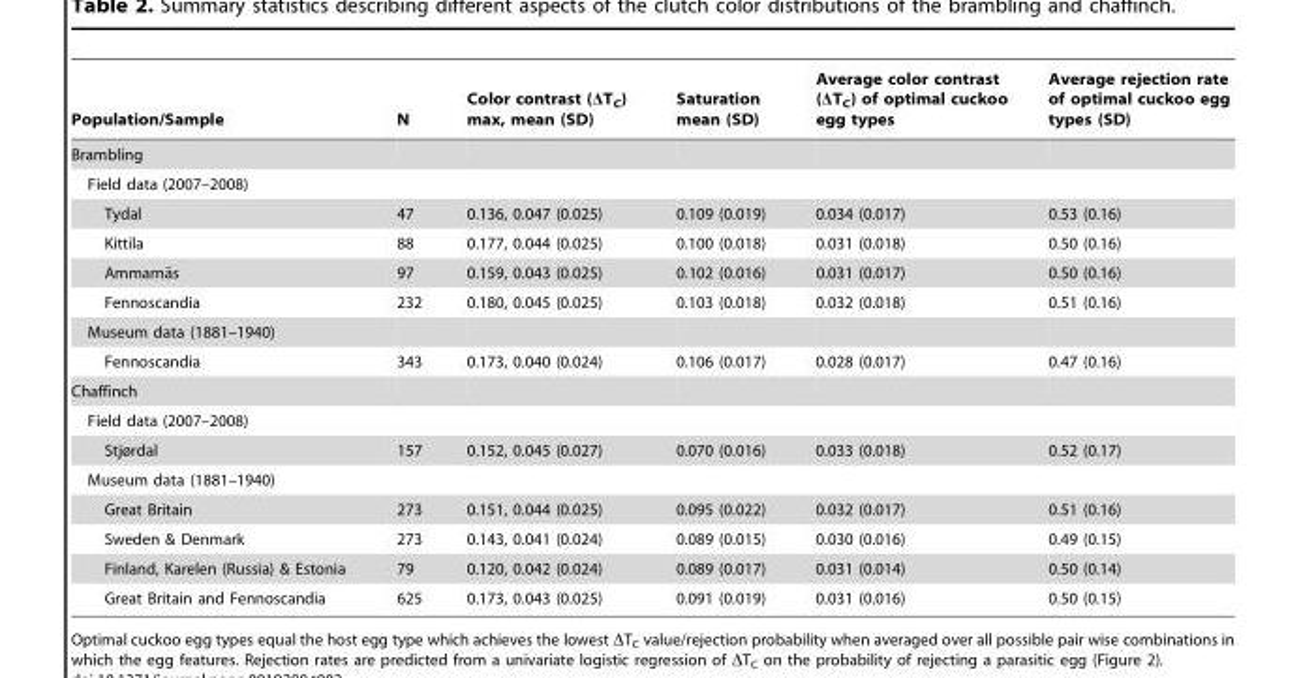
<table><thead><tr><td>Population/Sample</td><td>N</td><td>Color contrast (ΔT<sub>C</sub>) max, mean (SD)</td><td>Saturation mean (SD)</td><td>Average color contrast (ΔT<sub>C</sub>) of optimal cuckoo egg types</td><td>Average rejection rate of optimal cuckoo egg types (SD)</td></tr></thead><tbody><tr><td colspan="6">Brambling</td></tr><tr><td colspan="6">Field data (2007–2008)</td></tr><tr><td>Tydal</td><td>47</td><td>0.136, 0.047 (0.025)</td><td>0.109 (0.019)</td><td>0.034 (0.017)</td><td>0.53 (0.16)</td></tr><tr><td>Kittila</td><td>88</td><td>0.177, 0.044 (0.025)</td><td>0.100 (0.018)</td><td>0.031 (0.018)</td><td>0.50 (0.16)</td></tr><tr><td>Ammarna¨s</td><td>97</td><td>0.159, 0.043 (0.025)</td><td>0.102 (0.016)</td><td>0.031 (0.017)</td><td>0.50 (0.16)</td></tr><tr><td>Fennoscandia</td><td>232</td><td>0.180, 0.045 (0.025)</td><td>0.103 (0.018)</td><td>0.032 (0.018)</td><td>0.51 (0.16)</td></tr><tr><td colspan="6">Museum data (1881–1940)</td></tr><tr><td>Fennoscandia</td><td>343</td><td>0.173, 0.040 (0.024)</td><td>0.106 (0.017)</td><td>0.028 (0.017)</td><td>0.47 (0.16)</td></tr><tr><td colspan="6">Chaffinch</td></tr><tr><td colspan="6">Field data (2007–2008)</td></tr><tr><td>Stjørdal</td><td>157</td><td>0.152, 0.045 (0.027)</td><td>0.070 (0.016)</td><td>0.033 (0.018)</td><td>0.52 (0.17)</td></tr><tr><td colspan="6">Museum data (1881–1940)</td></tr><tr><td>Great Britain</td><td>273</td><td>0.151, 0.044 (0.025)</td><td>0.095 (0.022)</td><td>0.032 (0.017)</td><td>0.51 (0.16)</td></tr><tr><td>Sweden &amp; Denmark</td><td>273</td><td>0.143, 0.041 (0.024)</td><td>0.089 (0.015)</td><td>0.030 (0.016)</td><td>0.49 (0.15)</td></tr><tr><td>Finland, Karelen (Russia) &amp; Estonia</td><td>79</td><td>0.120, 0.042 (0.024)</td><td>0.089 (0.017)</td><td>0.031 (0.014)</td><td>0.50 (0.14)</td></tr><tr><td>Great Britain and Fennoscandia</td><td>625</td><td>0.173, 0.043 (0.025)</td><td>0.091 (0.019)</td><td>0.031 (0.016)</td><td>0.50 (0.15)</td></tr></tbody></table>